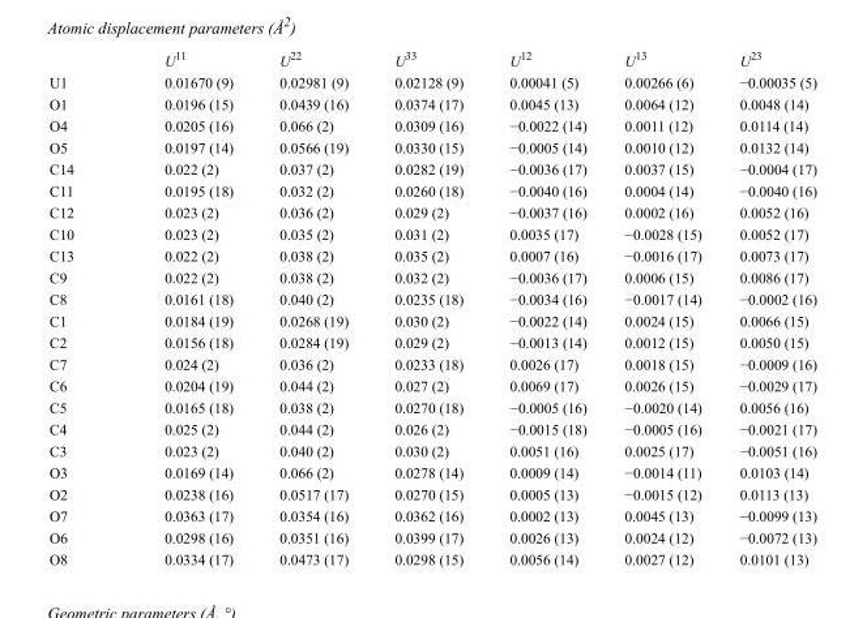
<table><thead><tr><td></td><td>U<sup>11</sup></td><td>U<sup>22</sup></td><td>U<sup>33</sup></td><td>U<sup>12</sup></td><td>U<sup>13</sup></td><td>U<sup>23</sup></td></tr></thead><tbody><tr><td>U1</td><td>0.01670 (9)</td><td>0.02981 (9)</td><td>0.02128 (9)</td><td>0.00041 (5)</td><td>0.00266 (6)</td><td>−0.00035 (5)</td></tr><tr><td>O1</td><td>0.0196 (15)</td><td>0.0439 (16)</td><td>0.0374 (17)</td><td>0.0045 (13)</td><td>0.0064 (12)</td><td>0.0048 (14)</td></tr><tr><td>O4</td><td>0.0205 (16)</td><td>0.066 (2)</td><td>0.0309 (16)</td><td>−0.0022 (14)</td><td>0.0011 (12)</td><td>0.0114 (14)</td></tr><tr><td>O5</td><td>0.0197 (14)</td><td>0.0566 (19)</td><td>0.0330 (15)</td><td>−0.0005 (14)</td><td>0.0010 (12)</td><td>0.0132 (14)</td></tr><tr><td>C14</td><td>0.022 (2)</td><td>0.037 (2)</td><td>0.0282 (19)</td><td>−0.0036 (17)</td><td>0.0037 (15)</td><td>−0.0004 (17)</td></tr><tr><td>C11</td><td>0.0195 (18)</td><td>0.032 (2)</td><td>0.0260 (18)</td><td>−0.0040 (16)</td><td>0.0004 (14)</td><td>−0.0040 (16)</td></tr><tr><td>C12</td><td>0.023 (2)</td><td>0.036 (2)</td><td>0.029 (2)</td><td>−0.0037 (16)</td><td>0.0002 (16)</td><td>0.0052 (16)</td></tr><tr><td>C10</td><td>0.023 (2)</td><td>0.035 (2)</td><td>0.031 (2)</td><td>0.0035 (17)</td><td>−0.0028 (15)</td><td>0.0052 (17)</td></tr><tr><td>C13</td><td>0.022 (2)</td><td>0.038 (2)</td><td>0.035 (2)</td><td>0.0007 (16)</td><td>−0.0016 (17)</td><td>0.0073 (17)</td></tr><tr><td>C9</td><td>0.022 (2)</td><td>0.038 (2)</td><td>0.032 (2)</td><td>−0.0036 (17)</td><td>0.0006 (15)</td><td>0.0086 (17)</td></tr><tr><td>C8</td><td>0.0161 (18)</td><td>0.040 (2)</td><td>0.0235 (18)</td><td>−0.0034 (16)</td><td>−0.0017 (14)</td><td>−0.0002 (16)</td></tr><tr><td>C1</td><td>0.0184 (19)</td><td>0.0268 (19)</td><td>0.030 (2)</td><td>−0.0022 (14)</td><td>0.0024 (15)</td><td>0.0066 (15)</td></tr><tr><td>C2</td><td>0.0156 (18)</td><td>0.0284 (19)</td><td>0.029 (2)</td><td>−0.0013 (14)</td><td>0.0012 (15)</td><td>0.0050 (15)</td></tr><tr><td>C7</td><td>0.024 (2)</td><td>0.036 (2)</td><td>0.0233 (18)</td><td>0.0026 (17)</td><td>0.0018 (15)</td><td>−0.0009 (16)</td></tr><tr><td>C6</td><td>0.0204 (19)</td><td>0.044 (2)</td><td>0.027 (2)</td><td>0.0069 (17)</td><td>0.0026 (15)</td><td>−0.0029 (17)</td></tr><tr><td>C5</td><td>0.0165 (18)</td><td>0.038 (2)</td><td>0.0270 (18)</td><td>−0.0005 (16)</td><td>−0.0020 (14)</td><td>0.0056 (16)</td></tr><tr><td>C4</td><td>0.025 (2)</td><td>0.044 (2)</td><td>0.026 (2)</td><td>−0.0015 (18)</td><td>−0.0005 (16)</td><td>−0.0021 (17)</td></tr><tr><td>C3</td><td>0.023 (2)</td><td>0.040 (2)</td><td>0.030 (2)</td><td>0.0051 (16)</td><td>0.0025 (17)</td><td>−0.0051 (16)</td></tr><tr><td>O3</td><td>0.0169 (14)</td><td>0.066 (2)</td><td>0.0278 (14)</td><td>0.0009 (14)</td><td>−0.0014 (11)</td><td>0.0103 (14)</td></tr><tr><td>O2</td><td>0.0238 (16)</td><td>0.0517 (17)</td><td>0.0270 (15)</td><td>0.0005 (13)</td><td>−0.0015 (12)</td><td>0.0113 (13)</td></tr><tr><td>O7</td><td>0.0363 (17)</td><td>0.0354 (16)</td><td>0.0362 (16)</td><td>0.0002 (13)</td><td>0.0045 (13)</td><td>−0.0099 (13)</td></tr><tr><td>O6</td><td>0.0298 (16)</td><td>0.0351 (16)</td><td>0.0399 (17)</td><td>0.0026 (13)</td><td>0.0024 (12)</td><td>−0.0072 (13)</td></tr><tr><td>O8</td><td>0.0334 (17)</td><td>0.0473 (17)</td><td>0.0298 (15)</td><td>0.0056 (14)</td><td>0.0027 (12)</td><td>0.0101 (13)</td></tr></tbody></table>